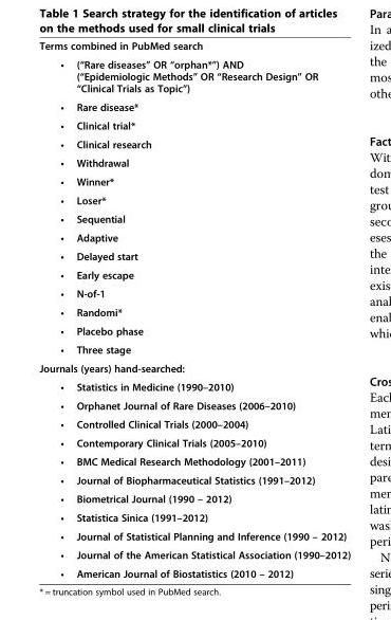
<table><tbody><tr><td colspan="2">Terms combined in PubMed search</td></tr><tr><td>•</td><td>(“Rare diseases” OR “orphan*”) AND (“Epidemiologic Methods” OR “Research Design” OR “Clinical Trials as Topic”)</td></tr><tr><td>•</td><td>Rare disease*</td></tr><tr><td>•</td><td>Clinical trial*</td></tr><tr><td>•</td><td>Clinical research</td></tr><tr><td>•</td><td>Withdrawal</td></tr><tr><td>•</td><td>Winner*</td></tr><tr><td>•</td><td>Loser*</td></tr><tr><td>•</td><td>Sequential</td></tr><tr><td>•</td><td>Adaptive</td></tr><tr><td>•</td><td>Delayed start</td></tr><tr><td>•</td><td>Early escape</td></tr><tr><td>•</td><td>N-of-1</td></tr><tr><td>•</td><td>Randomi*</td></tr><tr><td>•</td><td>Placebo phase</td></tr><tr><td>•</td><td>Three stage</td></tr><tr><td colspan="2">Journals (years) hand-searched:</td></tr><tr><td>•</td><td>Statistics in Medicine (1990–2010)</td></tr><tr><td>•</td><td>Orphanet Journal of Rare Diseases (2006–2010)</td></tr><tr><td>•</td><td>Controlled Clinical Trials (2000–2004)</td></tr><tr><td>•</td><td>Contemporary Clinical Trials (2005–2010)</td></tr><tr><td>•</td><td>BMC Medical Research Methodology (2001–2011)</td></tr><tr><td>•</td><td>Journal of Biopharmaceutical Statistics (1991–2012)</td></tr><tr><td>•</td><td>Biometrical Journal (1990 – 2012)</td></tr><tr><td>•</td><td>Statistica Sinica (1991–2012)</td></tr><tr><td>•</td><td>Journal of Statistical Planning and Inference (1990 – 2012)</td></tr><tr><td>•</td><td>Journal of the American Statistical Association (1990–2012)</td></tr><tr><td>•</td><td>American Journal of Biostatistics (2010 – 2012)</td></tr></tbody></table>